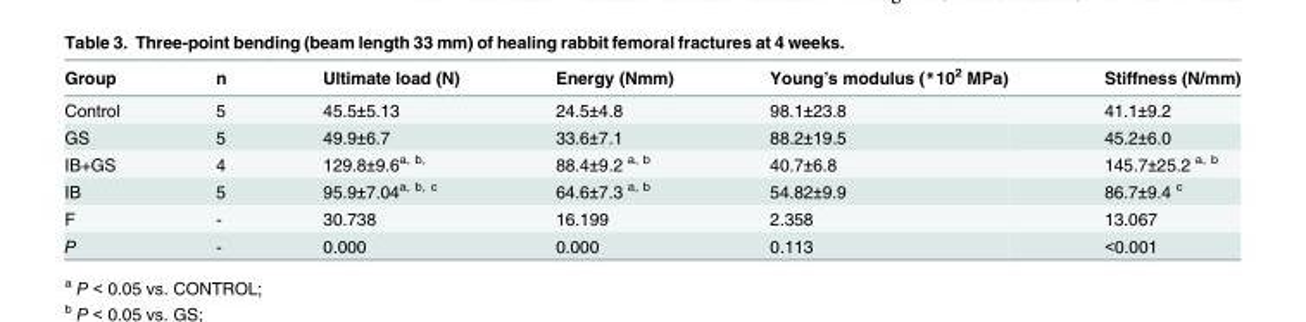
<table><thead><tr><td>Group</td><td>n</td><td>Ultimate load (N)</td><td>Energy (Nmm)</td><td>Young’s modulus (*10<sup>2</sup> MPa)</td><td>Stiffness (N/mm)</td></tr></thead><tbody><tr><td>Control</td><td>5</td><td>45.5±5.13</td><td>24.5±4.8</td><td>98.1±23.8</td><td>41.1±9.2</td></tr><tr><td>GS</td><td>5</td><td>49.9±6.7</td><td>33.6±7.1</td><td>88.2±19.5</td><td>45.2±6.0</td></tr><tr><td>IB+GS</td><td>4</td><td>129.8±9.6<sup>a, b,</sup></td><td>88.4±9.2 <sup>a, b</sup></td><td>40.7±6.8</td><td>145.7±25.2 <sup>a, b</sup></td></tr><tr><td>IB</td><td>5</td><td>95.9±7.04<sup>a, b, c</sup></td><td>64.6±7.3 <sup>a, b</sup></td><td>54.82±9.9</td><td>86.7±9.4 <sup>c</sup></td></tr><tr><td>F</td><td>-</td><td>30.738</td><td>16.199</td><td>2.358</td><td>13.067</td></tr><tr><td>P</td><td>-</td><td>0.000</td><td>0.000</td><td>0.113</td><td>&lt;0.001</td></tr></tbody></table>